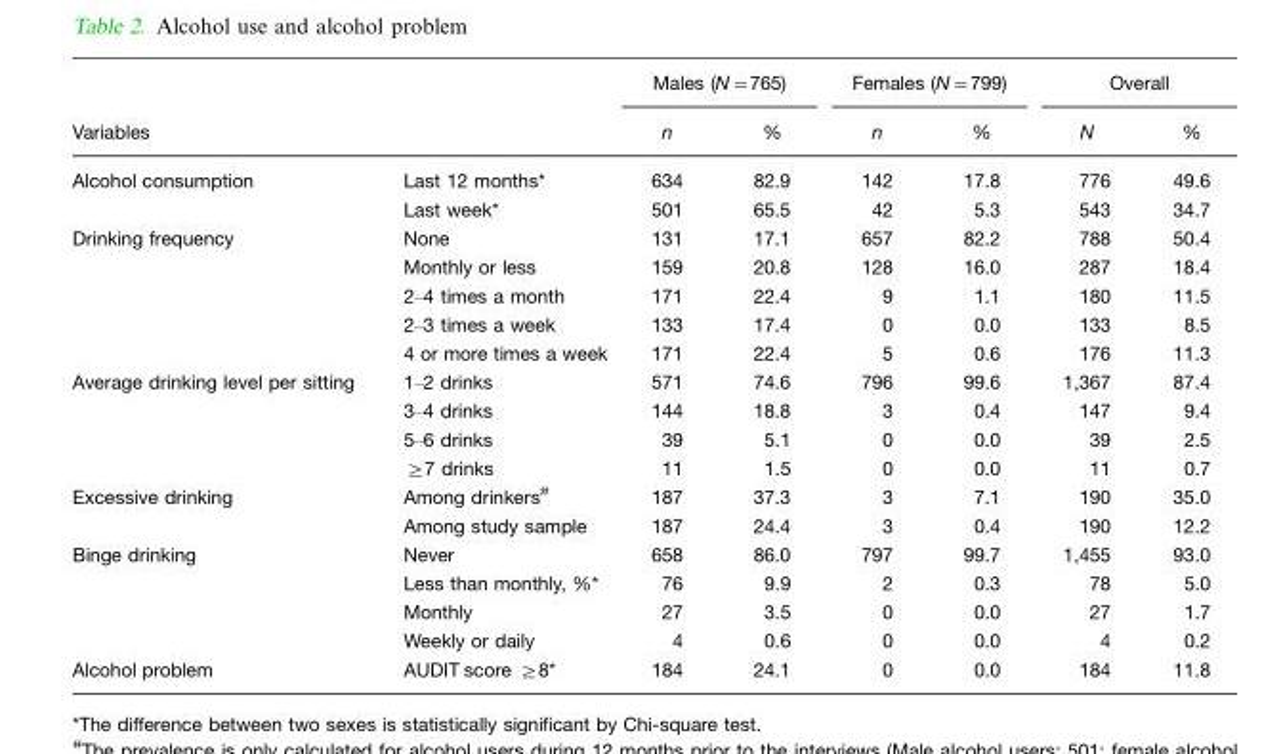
<table><thead><tr><td rowspan="2">Variables</td><td rowspan="2"></td><td colspan="2">Males (N=765)</td><td colspan="2">Females (N=799)</td><td colspan="2">Overall</td></tr><tr><td>n</td><td>%</td><td>n</td><td>%</td><td>N</td><td>%</td></tr></thead><tbody><tr><td rowspan="2">Alcohol consumption</td><td>Last 12 months*</td><td>634</td><td>82.9</td><td>142</td><td>17.8</td><td>776</td><td>49.6</td></tr><tr><td>Last week*</td><td>501</td><td>65.5</td><td>42</td><td>5.3</td><td>543</td><td>34.7</td></tr><tr><td rowspan="5">Drinking frequency</td><td>None</td><td>131</td><td>17.1</td><td>657</td><td>82.2</td><td>788</td><td>50.4</td></tr><tr><td>Monthly or less</td><td>159</td><td>20.8</td><td>128</td><td>16.0</td><td>287</td><td>18.4</td></tr><tr><td>2–4 times a month</td><td>171</td><td>22.4</td><td>9</td><td>1.1</td><td>180</td><td>11.5</td></tr><tr><td>2–3 times a week</td><td>133</td><td>17.4</td><td>0</td><td>0.0</td><td>133</td><td>8.5</td></tr><tr><td>4 or more times a week</td><td>171</td><td>22.4</td><td>5</td><td>0.6</td><td>176</td><td>11.3</td></tr><tr><td rowspan="4">Average drinking level per sitting</td><td>1–2 drinks</td><td>571</td><td>74.6</td><td>796</td><td>99.6</td><td>1,367</td><td>87.4</td></tr><tr><td>3–4 drinks</td><td>144</td><td>18.8</td><td>3</td><td>0.4</td><td>147</td><td>9.4</td></tr><tr><td>5–6 drinks</td><td>39</td><td>5.1</td><td>0</td><td>0.0</td><td>39</td><td>2.5</td></tr><tr><td>≥7 drinks</td><td>11</td><td>1.5</td><td>0</td><td>0.0</td><td>11</td><td>0.7</td></tr><tr><td rowspan="2">Excessive drinking</td><td>Among drinkers#</td><td>187</td><td>37.3</td><td>3</td><td>7.1</td><td>190</td><td>35.0</td></tr><tr><td>Among study sample</td><td>187</td><td>24.4</td><td>3</td><td>0.4</td><td>190</td><td>12.2</td></tr><tr><td rowspan="4">Binge drinking</td><td>Never</td><td>658</td><td>86.0</td><td>797</td><td>99.7</td><td>1,455</td><td>93.0</td></tr><tr><td>Less than monthly, %*</td><td>76</td><td>9.9</td><td>2</td><td>0.3</td><td>78</td><td>5.0</td></tr><tr><td>Monthly</td><td>27</td><td>3.5</td><td>0</td><td>0.0</td><td>27</td><td>1.7</td></tr><tr><td>Weekly or daily</td><td>4</td><td>0.6</td><td>0</td><td>0.0</td><td>4</td><td>0.2</td></tr><tr><td>Alcohol problem</td><td>AUDIT score ≥8*</td><td>184</td><td>24.1</td><td>0</td><td>0.0</td><td>184</td><td>11.8</td></tr></tbody></table>